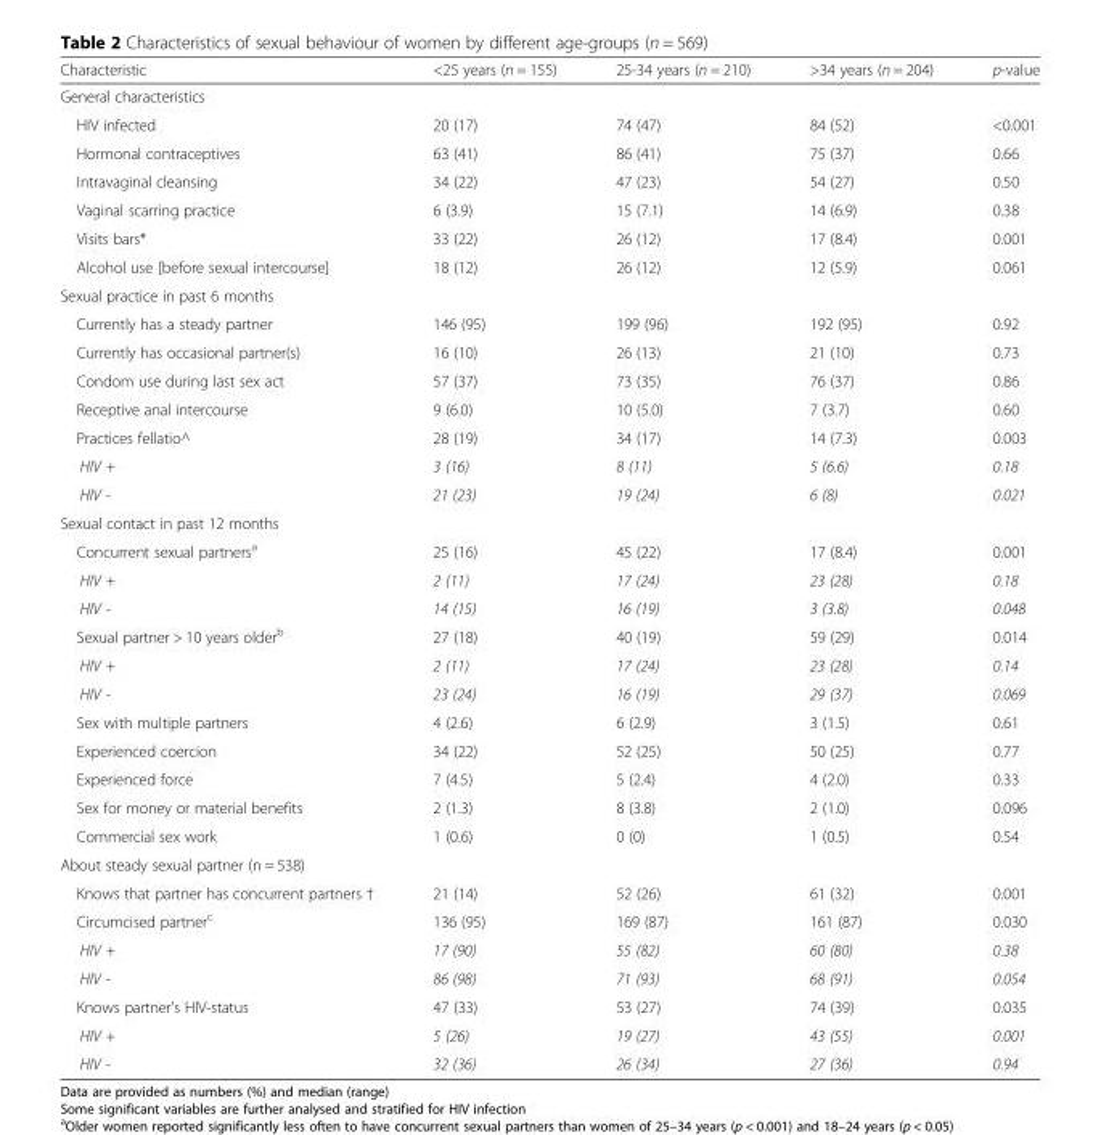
<table><thead><tr><td>Characteristic</td><td>&lt;25 years (n = 155)</td><td>25-34 years (n = 210)</td><td>&gt;34 years (n = 204)</td><td>p-value</td></tr></thead><tbody><tr><td colspan="5">General characteristics</td></tr><tr><td>HIV infected</td><td>20 (17)</td><td>74 (47)</td><td>84 (52)</td><td>&lt;0.001</td></tr><tr><td>Hormonal contraceptives</td><td>63 (41)</td><td>86 (41)</td><td>75 (37)</td><td>0.66</td></tr><tr><td>Intravaginal cleansing</td><td>34 (22)</td><td>47 (23)</td><td>54 (27)</td><td>0.50</td></tr><tr><td>Vaginal scarring practice</td><td>6 (3.9)</td><td>15 (7.1)</td><td>14 (6.9)</td><td>0.38</td></tr><tr><td>Visits bars*</td><td>33 (22)</td><td>26 (12)</td><td>17 (8.4)</td><td>0.001</td></tr><tr><td>Alcohol use [before sexual intercourse]</td><td>18 (12)</td><td>26 (12)</td><td>12 (5.9)</td><td>0.061</td></tr><tr><td colspan="5">Sexual practice in past 6 months</td></tr><tr><td>Currently has a steady partner</td><td>146 (95)</td><td>199 (96)</td><td>192 (95)</td><td>0.92</td></tr><tr><td>Currently has occasional partner(s)</td><td>16 (10)</td><td>26 (13)</td><td>21 (10)</td><td>0.73</td></tr><tr><td>Condom use during last sex act</td><td>57 (37)</td><td>73 (35)</td><td>76 (37)</td><td>0.86</td></tr><tr><td>Receptive anal intercourse</td><td>9 (6.0)</td><td>10 (5.0)</td><td>7 (3.7)</td><td>0.60</td></tr><tr><td>Practices fellatio^</td><td>28 (19)</td><td>34 (17)</td><td>14 (7.3)</td><td>0.003</td></tr><tr><td>HIV +</td><td>3 (16)</td><td>8 (11)</td><td>5 (6.6)</td><td>0.18</td></tr><tr><td>HIV -</td><td>21 (23)</td><td>19 (24)</td><td>6 (8)</td><td>0.021</td></tr><tr><td colspan="5">Sexual contact in past 12 months</td></tr><tr><td>Concurrent sexual partners<sup>a</sup></td><td>25 (16)</td><td>45 (22)</td><td>17 (8.4)</td><td>0.001</td></tr><tr><td>HIV +</td><td>2 (11)</td><td>17 (24)</td><td>23 (28)</td><td>0.18</td></tr><tr><td>HIV -</td><td>14 (15)</td><td>16 (19)</td><td>3 (3.8)</td><td>0.048</td></tr><tr><td>Sexual partner &gt; 10 years older<sup>b</sup></td><td>27 (18)</td><td>40 (19)</td><td>59 (29)</td><td>0.014</td></tr><tr><td>HIV +</td><td>2 (11)</td><td>17 (24)</td><td>23 (28)</td><td>0.14</td></tr><tr><td>HIV -</td><td>23 (24)</td><td>16 (19)</td><td>29 (37)</td><td>0.069</td></tr><tr><td>Sex with multiple partners</td><td>4 (2.6)</td><td>6 (2.9)</td><td>3 (1.5)</td><td>0.61</td></tr><tr><td>Experienced coercion</td><td>34 (22)</td><td>52 (25)</td><td>50 (25)</td><td>0.77</td></tr><tr><td>Experienced force</td><td>7 (4.5)</td><td>5 (2.4)</td><td>4 (2.0)</td><td>0.33</td></tr><tr><td>Sex for money or material benefits</td><td>2 (1.3)</td><td>8 (3.8)</td><td>2 (1.0)</td><td>0.096</td></tr><tr><td>Commercial sex work</td><td>1 (0.6)</td><td>0 (0)</td><td>1 (0.5)</td><td>0.54</td></tr><tr><td colspan="5">About steady sexual partner (n = 538)</td></tr><tr><td>Knows that partner has concurrent partners †</td><td>21 (14)</td><td>52 (26)</td><td>61 (32)</td><td>0.001</td></tr><tr><td>Circumcised partner<sup>c</sup></td><td>136 (95)</td><td>169 (87)</td><td>161 (87)</td><td>0.030</td></tr><tr><td>HIV +</td><td>17 (90)</td><td>55 (82)</td><td>60 (80)</td><td>0.38</td></tr><tr><td>HIV -</td><td>86 (98)</td><td>71 (93)</td><td>68 (91)</td><td>0.054</td></tr><tr><td>Knows partner’s HIV-status</td><td>47 (33)</td><td>53 (27)</td><td>74 (39)</td><td>0.035</td></tr><tr><td>HIV +</td><td>5 (26)</td><td>19 (27)</td><td>43 (55)</td><td>0.001</td></tr><tr><td>HIV -</td><td>32 (36)</td><td>26 (34)</td><td>27 (36)</td><td>0.94</td></tr></tbody></table>